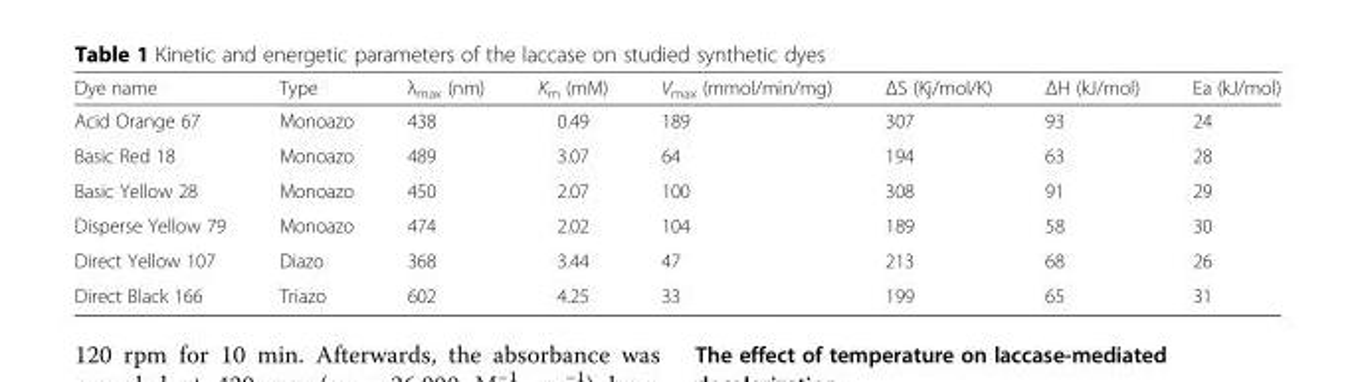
<table><thead><tr><td>Dye name</td><td>Type</td><td>λ<sub>max</sub> (nm)</td><td>K<sub>m</sub> (mM)</td><td>V<sub>max</sub> (mmol/min/mg)</td><td>ΔS (Kj/mol/K)</td><td>ΔH (kJ/mol)</td><td>Ea (kJ/mol)</td></tr></thead><tbody><tr><td>Acid Orange 67</td><td>Monoazo</td><td>438</td><td>0.49</td><td>189</td><td>307</td><td>93</td><td>24</td></tr><tr><td>Basic Red 18</td><td>Monoazo</td><td>489</td><td>3.07</td><td>64</td><td>194</td><td>63</td><td>28</td></tr><tr><td>Basic Yellow 28</td><td>Monoazo</td><td>450</td><td>2.07</td><td>100</td><td>308</td><td>91</td><td>29</td></tr><tr><td>Disperse Yellow 79</td><td>Monoazo</td><td>474</td><td>2.02</td><td>104</td><td>189</td><td>58</td><td>30</td></tr><tr><td>Direct Yellow 107</td><td>Diazo</td><td>368</td><td>3.44</td><td>47</td><td>213</td><td>68</td><td>26</td></tr><tr><td>Direct Black 166</td><td>Triazo</td><td>602</td><td>4.25</td><td>33</td><td>199</td><td>65</td><td>31</td></tr></tbody></table>